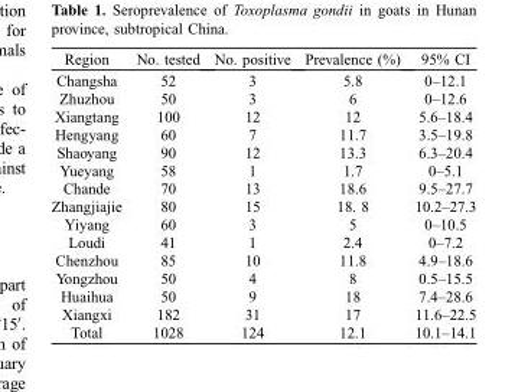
<table><thead><tr><td>Region</td><td>No. tested</td><td>No. positive</td><td>Prevalence (%)</td><td>95% CI</td></tr></thead><tbody><tr><td>Changsha</td><td>52</td><td>3</td><td>5.8</td><td>0–12.1</td></tr><tr><td>Zhuzhou</td><td>50</td><td>3</td><td>6</td><td>0–12.6</td></tr><tr><td>Xiangtang</td><td>100</td><td>12</td><td>12</td><td>5.6–18.4</td></tr><tr><td>Hengyang</td><td>60</td><td>7</td><td>11.7</td><td>3.5–19.8</td></tr><tr><td>Shaoyang</td><td>90</td><td>12</td><td>13.3</td><td>6.3–20.4</td></tr><tr><td>Yueyang</td><td>58</td><td>1</td><td>1.7</td><td>0–5.1</td></tr><tr><td>Chande</td><td>70</td><td>13</td><td>18.6</td><td>9.5–27.7</td></tr><tr><td>Zhangjiajie</td><td>80</td><td>15</td><td>18. 8</td><td>10.2–27.3</td></tr><tr><td>Yiyang</td><td>60</td><td>3</td><td>5</td><td>0–10.5</td></tr><tr><td>Loudi</td><td>41</td><td>1</td><td>2.4</td><td>0–7.2</td></tr><tr><td>Chenzhou</td><td>85</td><td>10</td><td>11.8</td><td>4.9–18.6</td></tr><tr><td>Yongzhou</td><td>50</td><td>4</td><td>8</td><td>0.5–15.5</td></tr><tr><td>Huaihua</td><td>50</td><td>9</td><td>18</td><td>7.4–28.6</td></tr><tr><td>Xiangxi</td><td>182</td><td>31</td><td>17</td><td>11.6–22.5</td></tr><tr><td>Total</td><td>1028</td><td>124</td><td>12.1</td><td>10.1–14.1</td></tr></tbody></table>